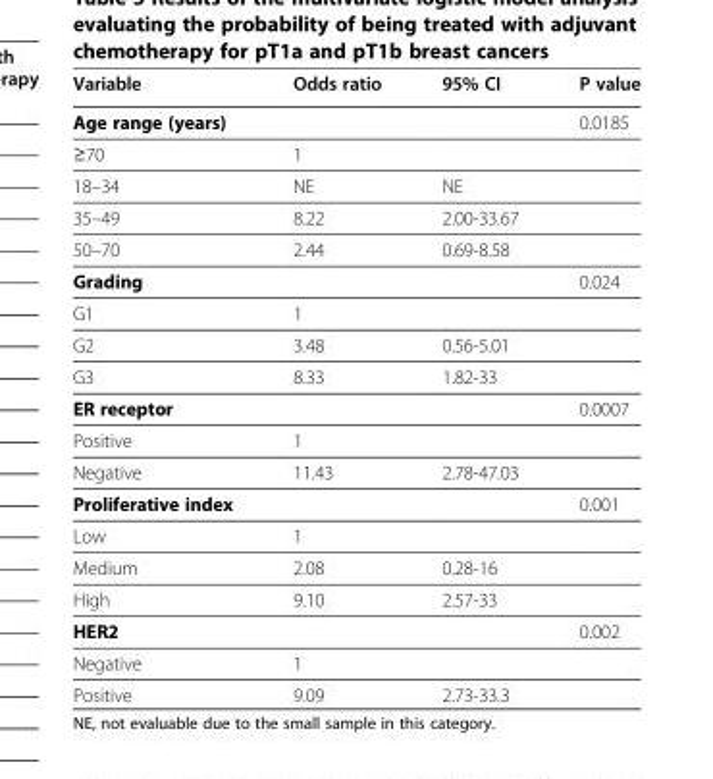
<table><thead><tr><td>Variable</td><td>Odds ratio</td><td>95% CI</td><td>P value</td></tr></thead><tbody><tr><td>Age range (years)</td><td></td><td></td><td>0.0185</td></tr><tr><td>≥70</td><td>1</td><td></td><td></td></tr><tr><td>18–34</td><td>NE</td><td>NE</td><td></td></tr><tr><td>35–49</td><td>8.22</td><td>2.00-33.67</td><td></td></tr><tr><td>50–70</td><td>2.44</td><td>0.69-8.58</td><td></td></tr><tr><td>Grading</td><td></td><td></td><td>0.024</td></tr><tr><td>G1</td><td>1</td><td></td><td></td></tr><tr><td>G2</td><td>3.48</td><td>0.56-5.01</td><td></td></tr><tr><td>G3</td><td>8.33</td><td>1.82-33</td><td></td></tr><tr><td>ER receptor</td><td></td><td></td><td>0.0007</td></tr><tr><td>Positive</td><td>1</td><td></td><td></td></tr><tr><td>Negative</td><td>11.43</td><td>2.78-47.03</td><td></td></tr><tr><td>Proliferative index</td><td></td><td></td><td>0.001</td></tr><tr><td>Low</td><td>1</td><td></td><td></td></tr><tr><td>Medium</td><td>2.08</td><td>0.28-16</td><td></td></tr><tr><td>High</td><td>9.10</td><td>2.57-33</td><td></td></tr><tr><td>HER2</td><td></td><td></td><td>0.002</td></tr><tr><td>Negative</td><td>1</td><td></td><td></td></tr><tr><td>Positive</td><td>9.09</td><td>2.73-33.3</td><td></td></tr></tbody></table>